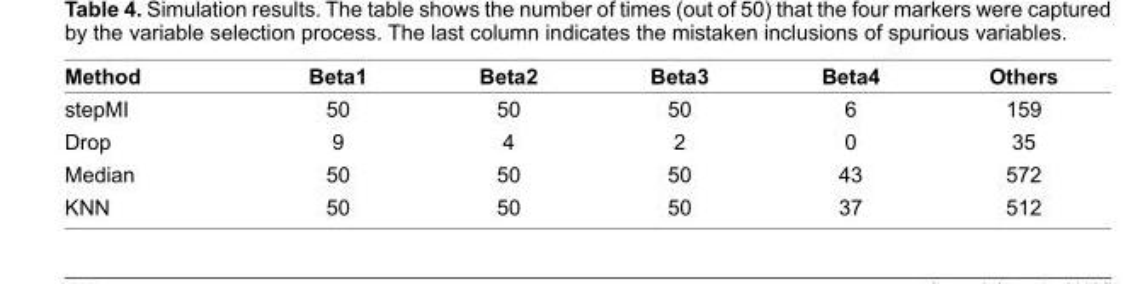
<table><thead><tr><td>Method</td><td>Beta1</td><td>Beta2</td><td>Beta3</td><td>Beta4</td><td>Others</td></tr></thead><tbody><tr><td>stepMI</td><td>50</td><td>50</td><td>50</td><td>6</td><td>159</td></tr><tr><td>Drop</td><td>9</td><td>4</td><td>2</td><td>0</td><td>35</td></tr><tr><td>Median</td><td>50</td><td>50</td><td>50</td><td>43</td><td>572</td></tr><tr><td>KNN</td><td>50</td><td>50</td><td>50</td><td>37</td><td>512</td></tr></tbody></table>